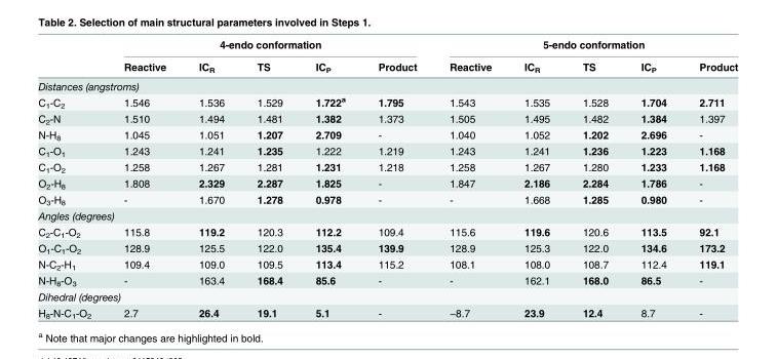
<table><thead><tr><td rowspan="2"></td><td colspan="5">4-endo conformation</td><td colspan="5">5-endo conformation</td></tr><tr><td>Reactive</td><td>IC<sub>R</sub></td><td>TS</td><td>IC<sub>P</sub></td><td>Product</td><td>Reactive</td><td>IC<sub>R</sub></td><td>TS</td><td>IC<sub>P</sub></td><td>Product</td></tr></thead><tbody><tr><td colspan="11">Distances (angstroms)</td></tr><tr><td>C<sub>1</sub>-C<sub>2</sub></td><td>1.546</td><td>1.536</td><td>1.529</td><td>1.722<sup>a</sup></td><td>1.795</td><td>1.543</td><td>1.535</td><td>1.528</td><td>1.704</td><td>2.711</td></tr><tr><td>C<sub>2</sub>-N</td><td>1.510</td><td>1.494</td><td>1.481</td><td>1.382</td><td>1.373</td><td>1.505</td><td>1.495</td><td>1.482</td><td>1.384</td><td>1.397</td></tr><tr><td>N-H<sub>8</sub></td><td>1.045</td><td>1.051</td><td>1.207</td><td>2.709</td><td>-</td><td>1.040</td><td>1.052</td><td>1.202</td><td>2.696</td><td>-</td></tr><tr><td>C<sub>1</sub>-O<sub>1</sub></td><td>1.243</td><td>1.241</td><td>1.235</td><td>1.222</td><td>1.219</td><td>1.243</td><td>1.241</td><td>1.236</td><td>1.223</td><td>1.168</td></tr><tr><td>C<sub>1</sub>-O<sub>2</sub></td><td>1.258</td><td>1.267</td><td>1.281</td><td>1.231</td><td>1.218</td><td>1.258</td><td>1.267</td><td>1.280</td><td>1.233</td><td>1.168</td></tr><tr><td>O<sub>2</sub>-H<sub>8</sub></td><td>1.808</td><td>2.329</td><td>2.287</td><td>1.825</td><td>-</td><td>1.847</td><td>2.186</td><td>2.284</td><td>1.786</td><td>-</td></tr><tr><td>O<sub>3</sub>-H<sub>8</sub></td><td>-</td><td>1.670</td><td>1.278</td><td>0.978</td><td>-</td><td>-</td><td>1.668</td><td>1.285</td><td>0.980</td><td>-</td></tr><tr><td colspan="11">Angles (degrees)</td></tr><tr><td>C<sub>2</sub>-C<sub>1</sub>-O<sub>2</sub></td><td>115.8</td><td>119.2</td><td>120.3</td><td>112.2</td><td>109.4</td><td>115.6</td><td>119.6</td><td>120.6</td><td>113.5</td><td>92.1</td></tr><tr><td>O<sub>1</sub>-C<sub>1</sub>-O<sub>2</sub></td><td>128.9</td><td>125.5</td><td>122.0</td><td>135.4</td><td>139.9</td><td>128.9</td><td>125.3</td><td>122.0</td><td>134.6</td><td>173.2</td></tr><tr><td>N-C<sub>2</sub>-H<sub>1</sub></td><td>109.4</td><td>109.0</td><td>109.5</td><td>113.4</td><td>115.2</td><td>108.1</td><td>108.0</td><td>108.7</td><td>112.4</td><td>119.1</td></tr><tr><td>N-H<sub>8</sub>-O<sub>3</sub></td><td>-</td><td>163.4</td><td>168.4</td><td>85.6</td><td>-</td><td>-</td><td>162.1</td><td>168.0</td><td>86.5</td><td>-</td></tr><tr><td colspan="11">Dihedral (degrees)</td></tr><tr><td>H<sub>8</sub>-N-C<sub>1</sub>-O<sub>2</sub></td><td>2.7</td><td>26.4</td><td>19.1</td><td>5.1</td><td>-</td><td>−8.7</td><td>23.9</td><td>12.4</td><td>8.7</td><td>-</td></tr></tbody></table>